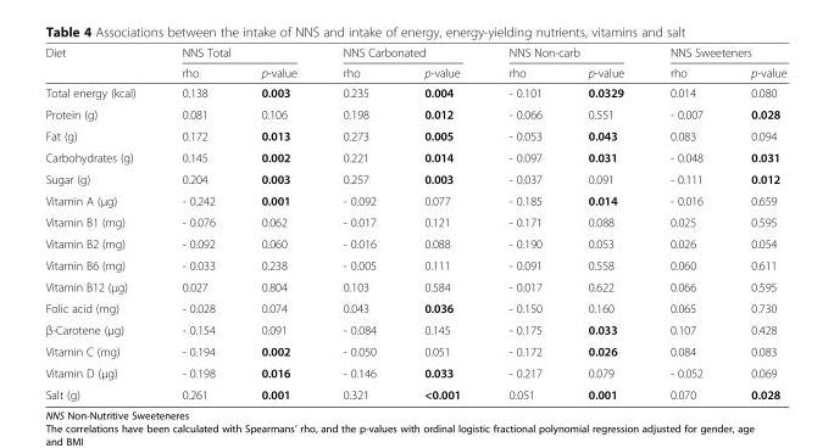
<table><thead><tr><td rowspan="2">Diet</td><td colspan="2">NNS Total</td><td colspan="2">NNS Carbonated</td><td colspan="2">NNS Non-carb</td><td colspan="2">NNS Sweeteners</td></tr><tr><td>rho</td><td>p-value</td><td>rho</td><td>p-value</td><td>rho</td><td>p-value</td><td>rho</td><td>p-value</td></tr></thead><tbody><tr><td>Total energy (kcal)</td><td>0.138</td><td>0.003</td><td>0.235</td><td>0.004</td><td>- 0.101</td><td>0.0329</td><td>0.014</td><td>0.080</td></tr><tr><td>Protein (g)</td><td>0.081</td><td>0.106</td><td>0.198</td><td>0.012</td><td>- 0.066</td><td>0.551</td><td>- 0.007</td><td>0.028</td></tr><tr><td>Fat (g)</td><td>0.172</td><td>0.013</td><td>0.273</td><td>0.005</td><td>- 0.053</td><td>0.043</td><td>0.083</td><td>0.094</td></tr><tr><td>Carbohydrates (g)</td><td>0.145</td><td>0.002</td><td>0.221</td><td>0.014</td><td>- 0.097</td><td>0.031</td><td>- 0.048</td><td>0.031</td></tr><tr><td>Sugar (g)</td><td>0.204</td><td>0.003</td><td>0.257</td><td>0.003</td><td>- 0.037</td><td>0.091</td><td>- 0.111</td><td>0.012</td></tr><tr><td>Vitamin A (μg)</td><td>- 0.242</td><td>0.001</td><td>- 0.092</td><td>0.077</td><td>- 0.185</td><td>0.014</td><td>- 0.016</td><td>0.659</td></tr><tr><td>Vitamin B1 (mg)</td><td>- 0.076</td><td>0.062</td><td>- 0.017</td><td>0.121</td><td>- 0.171</td><td>0.088</td><td>0.025</td><td>0.595</td></tr><tr><td>Vitamin B2 (mg)</td><td>- 0.092</td><td>0.060</td><td>- 0.016</td><td>0.088</td><td>- 0.190</td><td>0.053</td><td>0.026</td><td>0.054</td></tr><tr><td>Vitamin B6 (mg)</td><td>- 0.033</td><td>0.238</td><td>- 0.005</td><td>0.111</td><td>- 0.091</td><td>0.558</td><td>0.060</td><td>0.611</td></tr><tr><td>Vitamin B12 (μg)</td><td>0.027</td><td>0.804</td><td>0.103</td><td>0.584</td><td>- 0.017</td><td>0.622</td><td>0.066</td><td>0.595</td></tr><tr><td>Folic acid (mg)</td><td>- 0.028</td><td>0.074</td><td>0.043</td><td>0.036</td><td>- 0.150</td><td>0.160</td><td>0.065</td><td>0.730</td></tr><tr><td>β-Carotene (μg)</td><td>- 0.154</td><td>0.091</td><td>- 0.084</td><td>0.145</td><td>- 0.175</td><td>0.033</td><td>0.107</td><td>0.428</td></tr><tr><td>Vitamin C (mg)</td><td>- 0.194</td><td>0.002</td><td>- 0.050</td><td>0.051</td><td>- 0.172</td><td>0.026</td><td>0.084</td><td>0.083</td></tr><tr><td>Vitamin D (μg)</td><td>- 0.198</td><td>0.016</td><td>- 0.146</td><td>0.033</td><td>- 0.217</td><td>0.079</td><td>- 0.052</td><td>0.069</td></tr><tr><td>Salt (g)</td><td>0.261</td><td>0.001</td><td>0.321</td><td>&lt;0.001</td><td>0.051</td><td>0.001</td><td>0.070</td><td>0.028</td></tr></tbody></table>